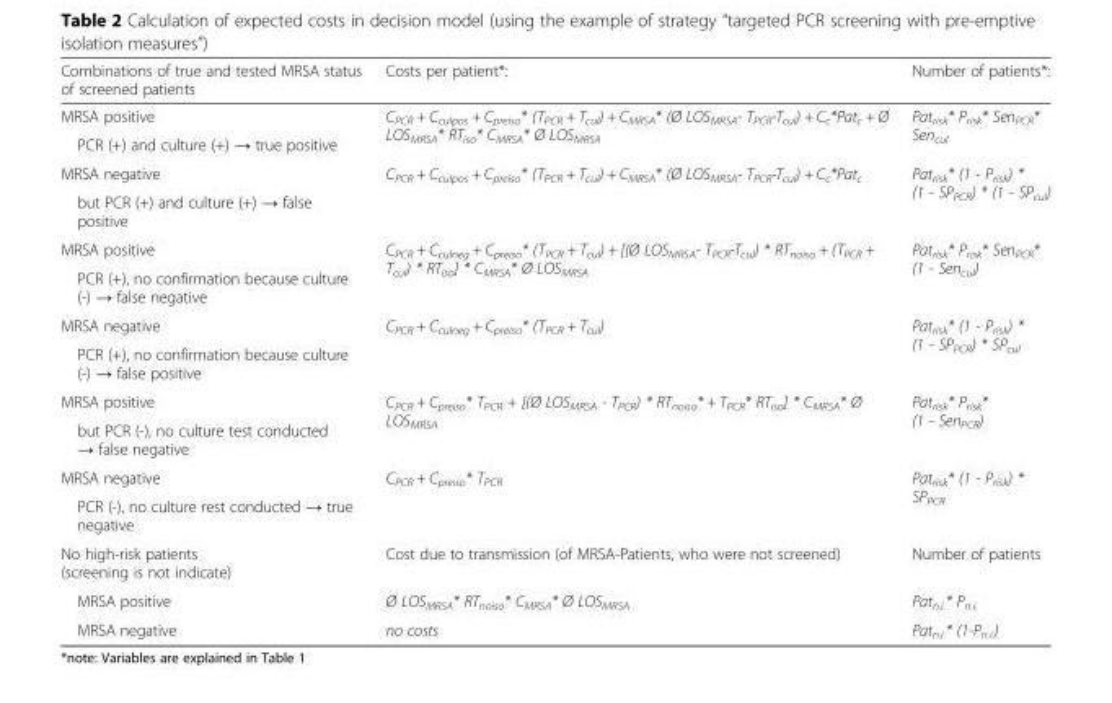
<table><thead><tr><td>Combinations of true and tested MRSA status of screened patients</td><td>Costs per patient*:</td><td>Number of patients*:</td></tr></thead><tbody><tr><td>MRSA positive</td><td rowspan="2">CPCR + Cculpos + Cpreiso* (TPCR + Tcul) + CMRSA* (Ø LOSMRSA- TPCR-Tcul) + Cc*Patc + Ø LOSMRSA* RTiso* CMRSA* Ø LOSMRSA</td><td rowspan="2">Pat<sub>risk</sub>* P<sub>risk</sub>* Sen<sub>PCR</sub>* Sen<sub>cul</sub></td></tr><tr><td>PCR (+) and culture (+) → true positive</td></tr><tr><td>MRSA negative</td><td rowspan="2">CPCR + Cculpos + Cpreiso* (TPCR + Tcul) + CMRSA* (Ø LOSMRSA- TPCR-Tcul) + Cc*Patc</td><td rowspan="2">Pat<sub>risk</sub>* (1 - P<sub>risk</sub>) * (1 - SP<sub>PCR</sub>) * (1 - SP<sub>cul</sub>)</td></tr><tr><td>but PCR (+) and culture (+) → false positive</td></tr><tr><td>MRSA positive</td><td rowspan="2">CPCR + Cculneg + Cpreiso* (TPCR + Tcul) + [(Ø LOSMRSA- TPCR-Tcul) * RTnoiso + (TPCR + Tcul) * RTiso] * CMRSA* Ø LOSMRSA</td><td rowspan="2">Pat<sub>risk</sub>* P<sub>risk</sub>* Sen<sub>PCR</sub>* (1 - Sen<sub>cul</sub>)</td></tr><tr><td>PCR (+), no confirmation because culture (-) → false negative</td></tr><tr><td>MRSA negative</td><td rowspan="2">C<sub>PCR</sub> + C<sub>culneg</sub> + C<sub>preiso</sub>* (T<sub>PCR</sub> + T<sub>cul</sub>)</td><td rowspan="2">Pat<sub>risk</sub>* (1 - P<sub>risk</sub>) * (1 - SP<sub>PCR</sub>) * SP<sub>cul</sub></td></tr><tr><td>PCR (+), no confirmation because culture (-) → false positive</td></tr><tr><td>MRSA positive</td><td rowspan="2">CPCR + Cpreiso* TPCR + [(Ø LOSMRSA - TPCR) * RTnoiso* + TPCR* RTiso] * CMRSA* Ø LOSMRSA</td><td rowspan="2">Pat<sub>risk</sub>* P<sub>risk</sub>* (1 - Sen<sub>PCR</sub>)</td></tr><tr><td>but PCR (-), no culture test conducted → false negative</td></tr><tr><td>MRSA negative</td><td rowspan="2">C<sub>PCR</sub> + C<sub>preiso</sub>* T<sub>PCR</sub></td><td rowspan="2">Pat<sub>risk</sub>* (1 - P<sub>risk</sub>) * SP<sub>PCR</sub></td></tr><tr><td>PCR (-), no culture rest conducted → true negative</td></tr><tr><td>No high-risk patients (screening is not indicate)</td><td>Cost due to transmission (of MRSA-Patients, who were not screened)</td><td>Number of patients</td></tr><tr><td>MRSA positive</td><td>Ø LOS<sub>MRSA</sub>* RT<sub>noiso</sub>* C<sub>MRSA</sub>* Ø LOS<sub>MRSA</sub></td><td>Pat<sub>n.i.</sub>* P<sub>n.i.</sub></td></tr><tr><td>MRSA negative</td><td>no costs</td><td>Pat<sub>n.i.</sub>* (1-P<sub>n.i.</sub>)</td></tr></tbody></table>